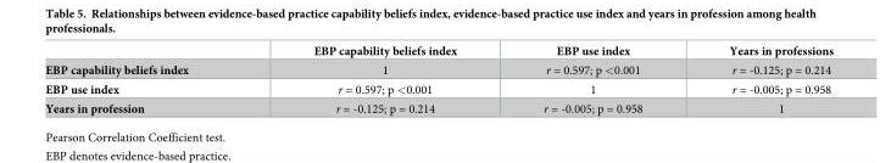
<table><thead><tr><td></td><td>EBP capability beliefs index</td><td>EBP use index</td><td>Years in professions</td></tr></thead><tbody><tr><td>EBP capability beliefs index</td><td>1</td><td>r = 0.597; p &lt;0.001</td><td>r = -0.125; p = 0.214</td></tr><tr><td>EBP use index</td><td>r = 0.597; p &lt;0.001</td><td>1</td><td>r = -0.005; p = 0.958</td></tr><tr><td>Years in profession</td><td>r = -0.125; p = 0.214</td><td>r = -0.005; p = 0.958</td><td>1</td></tr></tbody></table>